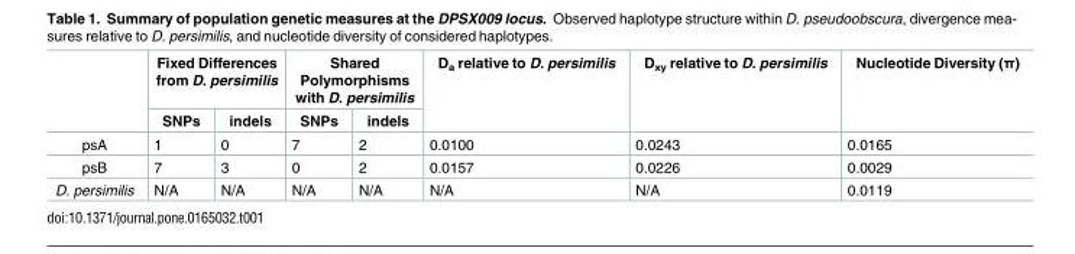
<table><thead><tr><td rowspan="2"></td><td colspan="2">Fixed Differences from D. persimilis</td><td colspan="2">Shared Polymorphisms with D. persimilis</td><td rowspan="2">D<sub>a</sub> relative to D. persimilis</td><td rowspan="2">D<sub>xy</sub> relative to D. persimilis</td><td rowspan="2">Nucleotide Diversity (π)</td></tr><tr><td>SNPs</td><td>indels</td><td>SNPs</td><td>indels</td></tr></thead><tbody><tr><td>psA</td><td>1</td><td>0</td><td>7</td><td>2</td><td>0.0100</td><td>0.0243</td><td>0.0165</td></tr><tr><td>psB</td><td>7</td><td>3</td><td>0</td><td>2</td><td>0.0157</td><td>0.0226</td><td>0.0029</td></tr><tr><td>D. persimilis</td><td>N/A</td><td>N/A</td><td>N/A</td><td>N/A</td><td>N/A</td><td>N/A</td><td>0.0119</td></tr></tbody></table>